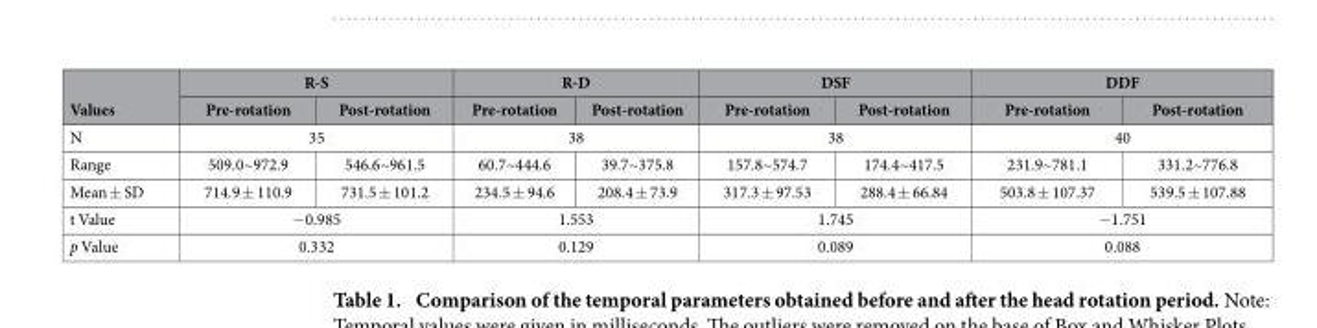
<table><thead><tr><td rowspan="2">Values</td><td colspan="2">R-S</td><td colspan="2">R-D</td><td colspan="2">DSF</td><td colspan="2">DDF</td></tr><tr><td>Pre-rotation</td><td>Post-rotation</td><td>Pre-rotation</td><td>Post-rotation</td><td>Pre-rotation</td><td>Post-rotation</td><td>Pre-rotation</td><td>Post-rotation</td></tr></thead><tbody><tr><td>N</td><td colspan="2">35</td><td colspan="2">38</td><td colspan="2">38</td><td colspan="2">40</td></tr><tr><td>Range</td><td>509.0~972.9</td><td>546.6~961.5</td><td>60.7~444.6</td><td>39.7~375.8</td><td>157.8~574.7</td><td>174.4~417.5</td><td>231.9~781.1</td><td>331.2~776.8</td></tr><tr><td>Mean ± SD</td><td>714.9 ± 110.9</td><td>731.5 ± 101.2</td><td>234.5 ± 94.6</td><td>208.4 ± 73.9</td><td>317.3 ± 97.53</td><td>288.4 ± 66.84</td><td>503.8 ± 107.37</td><td>539.5 ± 107.88</td></tr><tr><td>t Value</td><td colspan="2">− 0.985</td><td colspan="2">1.553</td><td colspan="2">1.745</td><td colspan="2">− 1.751</td></tr><tr><td>p Value</td><td colspan="2">0.332</td><td colspan="2">0.129</td><td colspan="2">0.089</td><td colspan="2">0.088</td></tr></tbody></table>